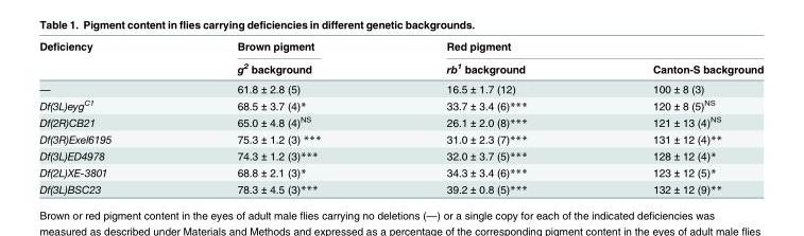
<table><thead><tr><td rowspan="2">Deficiency</td><td rowspan="2">Brown pigment g<sup>2</sup> background</td><td colspan="2">Red pigment</td></tr><tr><td>rb<sup>1</sup> background</td><td>Canton-S background</td></tr></thead><tbody><tr><td>—</td><td>61.8 ± 2.8 (5)</td><td>16.5 ± 1.7 (12)</td><td>100 ± 8 (3)</td></tr><tr><td>Df(3L)eyg<sup>C1</sup></td><td>68.5 ± 3.7 (4)*</td><td>33.7 ± 3.4 (6)***</td><td>120 ± 8 (5)<sup>NS</sup></td></tr><tr><td>Df(2R)CB21</td><td>65.0 ± 4.8 (4)<sup>NS</sup></td><td>26.1 ± 2.0 (8)***</td><td>121 ± 13 (4)<sup>NS</sup></td></tr><tr><td>Df(3R)Exel6195</td><td>75.3 ± 1.2 (3) ***</td><td>31.0 ± 2.3 (7)***</td><td>131 ± 12 (4)**</td></tr><tr><td>Df(3L)ED4978</td><td>74.3 ± 1.2 (3)***</td><td>32.0 ± 3.7 (5)***</td><td>128 ± 12 (4)*</td></tr><tr><td>Df(2L)XE-3801</td><td>68.8 ± 2.1 (3)*</td><td>34.3 ± 3.4 (6)***</td><td>123 ± 12 (5)*</td></tr><tr><td>Df(3L)BSC23</td><td>78.3 ± 4.5 (3)***</td><td>39.2 ± 0.8 (5)***</td><td>132 ± 12 (9)**</td></tr></tbody></table>